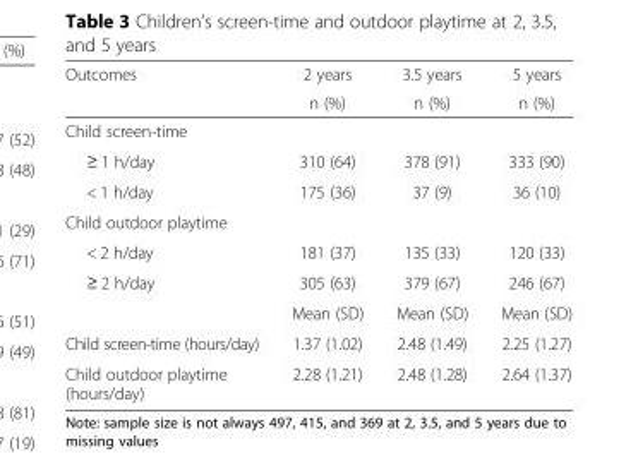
<table><thead><tr><td rowspan="2">Outcomes</td><td rowspan="2">2 years n (%)</td><td rowspan="2">3.5 years n (%)</td><td rowspan="2">5 years n (%)</td></tr><tr></tr></thead><tbody><tr><td colspan="4">Child screen-time</td></tr><tr><td>≥ 1 h/day</td><td>310 (64)</td><td>378 (91)</td><td>333 (90)</td></tr><tr><td>&lt; 1 h/day</td><td>175 (36)</td><td>37 (9)</td><td>36 (10)</td></tr><tr><td colspan="4">Child outdoor playtime</td></tr><tr><td>&lt; 2 h/day</td><td>181 (37)</td><td>135 (33)</td><td>120 (33)</td></tr><tr><td rowspan="2">≥ 2 h/day</td><td>305 (63)</td><td>379 (67)</td><td>246 (67)</td></tr><tr><td>Mean (SD)</td><td>Mean (SD)</td><td>Mean (SD)</td></tr><tr><td>Child screen-time (hours/day)</td><td>1.37 (1.02)</td><td>2.48 (1.49)</td><td>2.25 (1.27)</td></tr><tr><td>Child outdoor playtime (hours/day)</td><td>2.28 (1.21)</td><td>2.48 (1.28)</td><td>2.64 (1.37)</td></tr></tbody></table>